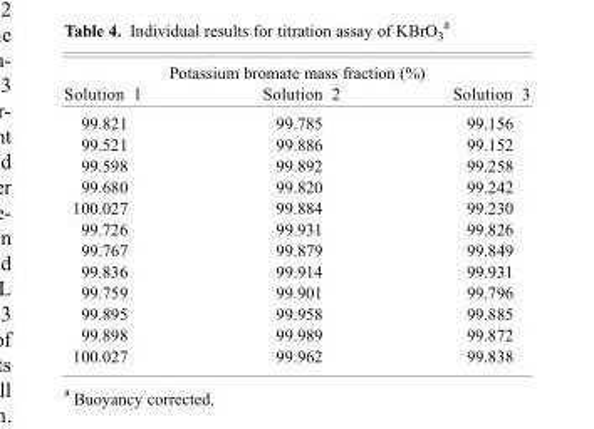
<table><thead><tr><td colspan="3">Potassium bromate mass fraction (%)</td></tr><tr><td>Solution 1</td><td>Solution 2</td><td>Solution 3</td></tr></thead><tbody><tr><td>99.821</td><td>99.785</td><td>99.156</td></tr><tr><td>99.521</td><td>99.886</td><td>99.152</td></tr><tr><td>99.598</td><td>99.892</td><td>99.258</td></tr><tr><td>99.680</td><td>99.820</td><td>99.242</td></tr><tr><td>100.027</td><td>99.884</td><td>99.230</td></tr><tr><td>99.726</td><td>99.931</td><td>99.826</td></tr><tr><td>99.767</td><td>99.879</td><td>99.849</td></tr><tr><td>99.836</td><td>99.914</td><td>99.931</td></tr><tr><td>99.759</td><td>99.901</td><td>99.796</td></tr><tr><td>99.895</td><td>99.958</td><td>99.885</td></tr><tr><td>99.898</td><td>99.989</td><td>99.872</td></tr><tr><td>100.027</td><td>99.962</td><td>99.838</td></tr></tbody></table>